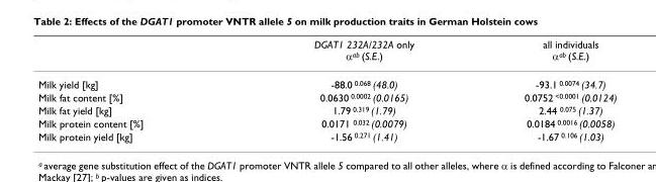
<table><thead><tr><td></td><td>DGAT1 232A/232A only α<sup>ab</sup> (S.E.)</td><td>all individuals α<sup>ab</sup> (S.E.)</td></tr></thead><tbody><tr><td>Milk yield [kg]</td><td>-88.0 <sup>0.068</sup> (48.0)</td><td>-93.1 <sup>0.0074</sup> (34.7)</td></tr><tr><td>Milk fat content [%]</td><td>0.0630 <sup>0.0002</sup> (0.0165)</td><td>0.0752 <sup>&lt;0.0001</sup> (0.0124)</td></tr><tr><td>Milk fat yield [kg]</td><td>1.79 <sup>0.319</sup> (1.79)</td><td>2.44 <sup>0.075</sup> (1.37)</td></tr><tr><td>Milk protein content [%]</td><td>0.0171 <sup>0.032</sup> (0.0079)</td><td>0.0184 <sup>0.0016</sup> (0.0058)</td></tr><tr><td>Milk protein yield [kg]</td><td>-1.56 <sup>0.271</sup> (1.41)</td><td>-1.67 <sup>0.106</sup> (1.03)</td></tr></tbody></table>